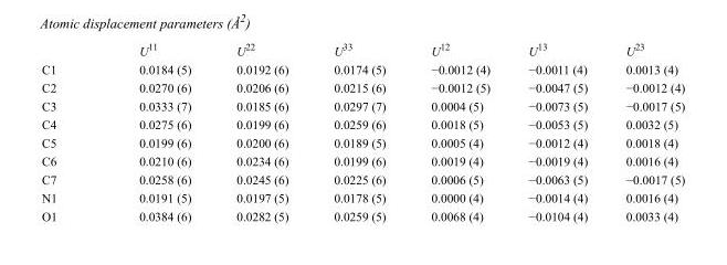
<table><thead><tr><td></td><td>U<sup>11</sup></td><td>U<sup>22</sup></td><td>U<sup>33</sup></td><td>U<sup>12</sup></td><td>U<sup>13</sup></td><td>U<sup>23</sup></td></tr></thead><tbody><tr><td>C1</td><td>0.0184 (5)</td><td>0.0192 (6)</td><td>0.0174 (5)</td><td>−0.0012 (4)</td><td>−0.0011 (4)</td><td>0.0013 (4)</td></tr><tr><td>C2</td><td>0.0270 (6)</td><td>0.0206 (6)</td><td>0.0215 (6)</td><td>−0.0012 (5)</td><td>−0.0047 (5)</td><td>−0.0012 (4)</td></tr><tr><td>C3</td><td>0.0333 (7)</td><td>0.0185 (6)</td><td>0.0297 (7)</td><td>0.0004 (5)</td><td>−0.0073 (5)</td><td>−0.0017 (5)</td></tr><tr><td>C4</td><td>0.0275 (6)</td><td>0.0199 (6)</td><td>0.0259 (6)</td><td>0.0018 (5)</td><td>−0.0053 (5)</td><td>0.0032 (5)</td></tr><tr><td>C5</td><td>0.0199 (6)</td><td>0.0200 (6)</td><td>0.0189 (5)</td><td>0.0005 (4)</td><td>−0.0012 (4)</td><td>0.0018 (4)</td></tr><tr><td>C6</td><td>0.0210 (6)</td><td>0.0234 (6)</td><td>0.0199 (6)</td><td>0.0019 (4)</td><td>−0.0019 (4)</td><td>0.0016 (4)</td></tr><tr><td>C7</td><td>0.0258 (6)</td><td>0.0245 (6)</td><td>0.0225 (6)</td><td>0.0006 (5)</td><td>−0.0063 (5)</td><td>−0.0017 (5)</td></tr><tr><td>N1</td><td>0.0191 (5)</td><td>0.0197 (5)</td><td>0.0178 (5)</td><td>0.0000 (4)</td><td>−0.0014 (4)</td><td>0.0016 (4)</td></tr><tr><td>O1</td><td>0.0384 (6)</td><td>0.0282 (5)</td><td>0.0259 (5)</td><td>0.0068 (4)</td><td>−0.0104 (4)</td><td>0.0033 (4)</td></tr></tbody></table>